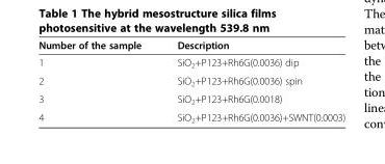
<table><thead><tr><td>Number of the sample</td><td>Description</td></tr></thead><tbody><tr><td>1</td><td>SiO<sub>2</sub>+P123+Rh6G(0.0036) dip</td></tr><tr><td>2</td><td>SiO<sub>2</sub>+P123+Rh6G(0.0036) spin</td></tr><tr><td>3</td><td>SiO<sub>2</sub>+P123+Rh6G(0.0018)</td></tr><tr><td>4</td><td>SiO<sub>2</sub>+P123+Rh6G(0.0036)+SWNT(0.0003)</td></tr></tbody></table>